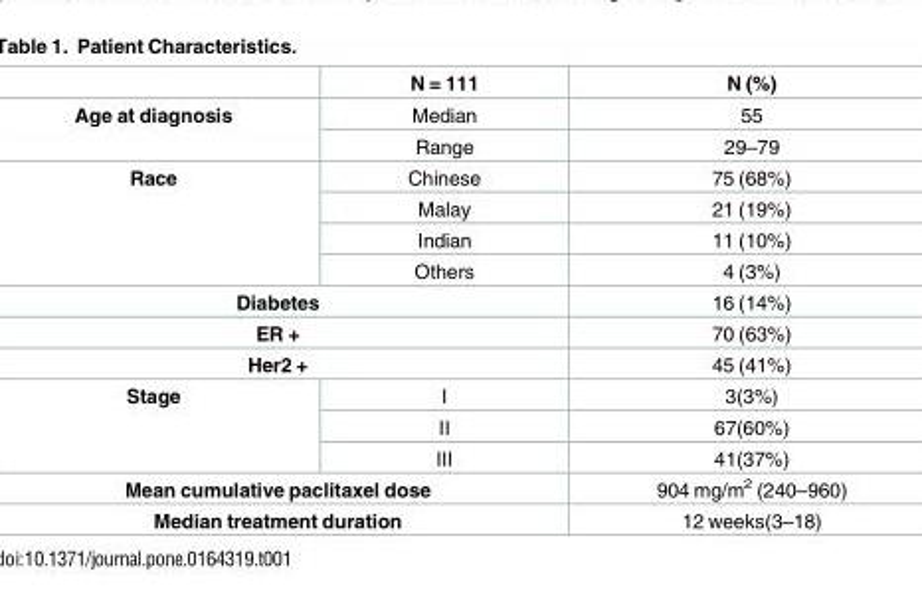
<table><thead><tr><td></td><td>N = 111</td><td>N (%)</td></tr></thead><tbody><tr><td rowspan="2">Age at diagnosis</td><td>Median</td><td>55</td></tr><tr><td>Range</td><td>29–79</td></tr><tr><td rowspan="4">Race</td><td>Chinese</td><td>75 (68%)</td></tr><tr><td>Malay</td><td>21 (19%)</td></tr><tr><td>Indian</td><td>11 (10%)</td></tr><tr><td>Others</td><td>4 (3%)</td></tr><tr><td colspan="2">Diabetes</td><td>16 (14%)</td></tr><tr><td colspan="2">ER +</td><td>70 (63%)</td></tr><tr><td colspan="2">Her2 +</td><td>45 (41%)</td></tr><tr><td rowspan="3">Stage</td><td>I</td><td>3(3%)</td></tr><tr><td>II</td><td>67(60%)</td></tr><tr><td>III</td><td>41(37%)</td></tr><tr><td colspan="2">Mean cumulative paclitaxel dose</td><td>904 mg/m<sup>2</sup> (240–960)</td></tr><tr><td colspan="2">Median treatment duration</td><td>12 weeks(3–18)</td></tr></tbody></table>